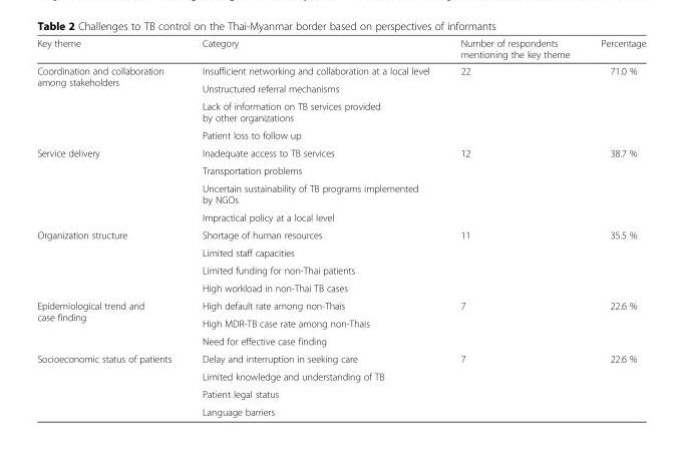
<table><thead><tr><td>Key theme</td><td>Category</td><td>Number of respondents mentioning the key theme</td><td>Percentage</td></tr></thead><tbody><tr><td rowspan="4">Coordination and collaboration among stakeholders</td><td>Insufficient networking and collaboration at a local level</td><td rowspan="4">22</td><td rowspan="4">71.0 %</td></tr><tr><td>Unstructured referral mechanisms</td></tr><tr><td>Lack of information on TB services provided by other organizations</td></tr><tr><td>Patient loss to follow up</td></tr><tr><td rowspan="4">Service delivery</td><td>Inadequate access to TB services</td><td rowspan="4">12</td><td rowspan="4">38.7 %</td></tr><tr><td>Transportation problems</td></tr><tr><td>Uncertain sustainability of TB programs implemented by NGOs</td></tr><tr><td>Impractical policy at a local level</td></tr><tr><td rowspan="4">Organization structure</td><td>Shortage of human resources</td><td rowspan="4">11</td><td rowspan="4">35.5 %</td></tr><tr><td>Limited staff capacities</td></tr><tr><td>Limited funding for non-Thai patients</td></tr><tr><td>High workload in non-Thai TB cases</td></tr><tr><td rowspan="3">Epidemiological trend and case finding</td><td>High default rate among non-Thais</td><td rowspan="3">7</td><td rowspan="3">22.6 %</td></tr><tr><td>High MDR-TB case rate among non-Thais</td></tr><tr><td>Need for effective case finding</td></tr><tr><td rowspan="4">Socioeconomic status of patients</td><td>Delay and interruption in seeking care</td><td rowspan="4">7</td><td rowspan="4">22.6 %</td></tr><tr><td>Limited knowledge and understanding of TB</td></tr><tr><td>Patient legal status</td></tr><tr><td>Language barriers</td></tr></tbody></table>